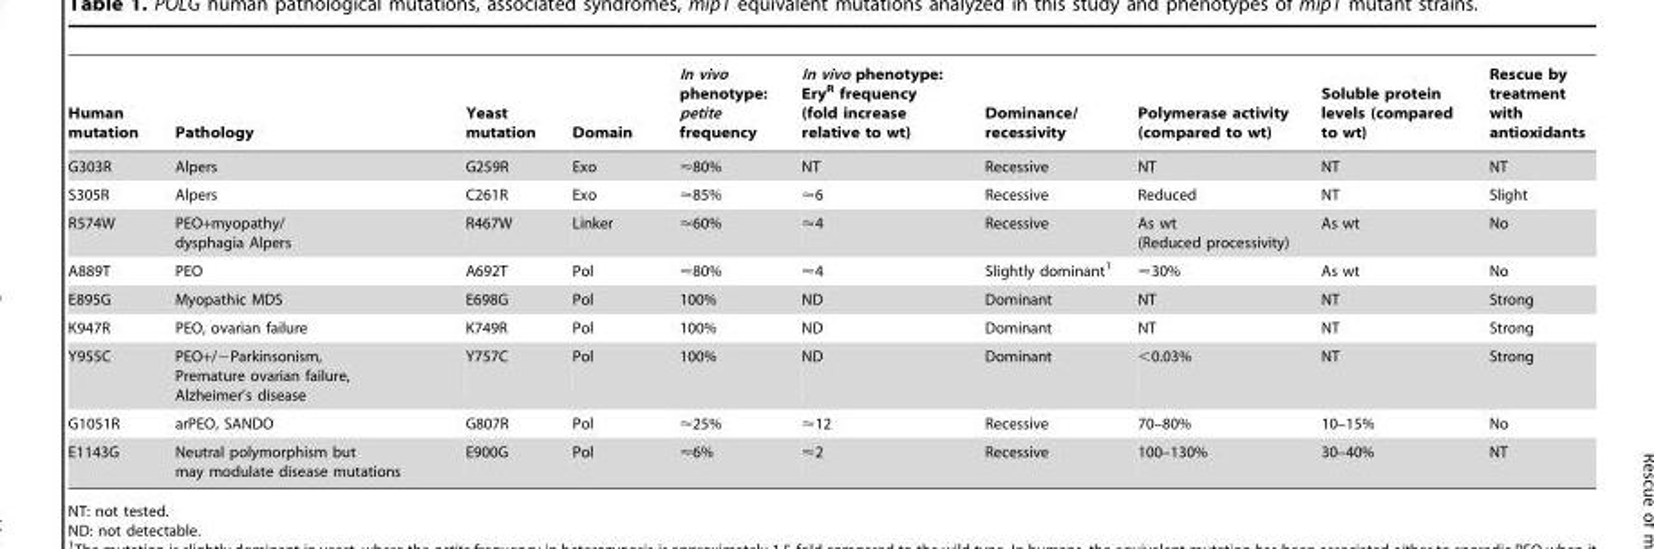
<table><thead><tr><td>Human mutation</td><td>Pathology</td><td>Yeast mutation</td><td>Domain</td><td>In vivo phenotype: petite frequency</td><td>In vivo phenotype: Ery<sup>R</sup> frequency (fold increase relative to wt)</td><td>Dominance/ recessivity</td><td>Polymerase activity (compared to wt)</td><td>Soluble protein levels (compared to wt)</td><td>Rescue by treatment with antioxidants</td></tr></thead><tbody><tr><td>G303R</td><td>Alpers</td><td>G259R</td><td>Exo</td><td>&lt;80%</td><td>NT</td><td>Recessive</td><td>NT</td><td>NT</td><td>NT</td></tr><tr><td>S305R</td><td>Alpers</td><td>C261R</td><td>Exo</td><td>&lt;85%</td><td>&lt;6</td><td>Recessive</td><td>Reduced</td><td>NT</td><td>Slight</td></tr><tr><td>R574W</td><td>PEO+myopathy/ dysphagia Alpers</td><td>R467W</td><td>Linker</td><td>&lt;60%</td><td>&lt;4</td><td>Recessive</td><td>As wt (Reduced processivity)</td><td>As wt</td><td>No</td></tr><tr><td>A889T</td><td>PEO</td><td>A692T</td><td>Pol</td><td>&lt;80%</td><td>&lt;4</td><td>Slightly dominant<sup>1</sup></td><td>&lt;30%</td><td>As wt</td><td>No</td></tr><tr><td>E895G</td><td>Myopathic MDS</td><td>E698G</td><td>Pol</td><td>100%</td><td>ND</td><td>Dominant</td><td>NT</td><td>NT</td><td>Strong</td></tr><tr><td>K947R</td><td>PEO, ovarian failure</td><td>K749R</td><td>Pol</td><td>100%</td><td>ND</td><td>Dominant</td><td>NT</td><td>NT</td><td>Strong</td></tr><tr><td>Y955C</td><td>PEO+/−Parkinsonism, Premature ovarian failure, Alzheimer’s disease</td><td>Y757C</td><td>Pol</td><td>100%</td><td>ND</td><td>Dominant</td><td>&lt;0.03%</td><td>NT</td><td>Strong</td></tr><tr><td>G1051R</td><td>arPEO, SANDO</td><td>G807R</td><td>Pol</td><td>&lt;25%</td><td>&lt;12</td><td>Recessive</td><td>70–80%</td><td>10–15%</td><td>No</td></tr><tr><td>E1143G</td><td>Neutral polymorphism but may modulate disease mutations</td><td>E900G</td><td>Pol</td><td>&lt;6%</td><td>&lt;2</td><td>Recessive</td><td>100–130%</td><td>30–40%</td><td>NT</td></tr></tbody></table>